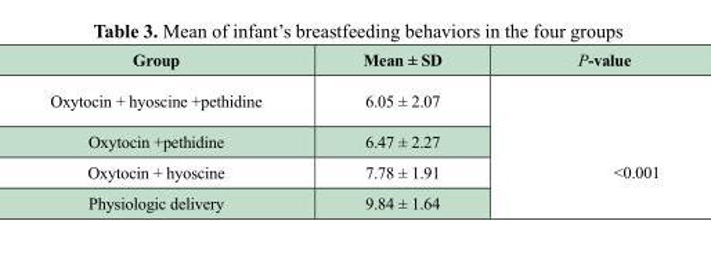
<table><thead><tr><td>Group</td><td>Mean ± SD</td><td>P-value</td></tr></thead><tbody><tr><td>Oxytocin + hyoscine +pethidine</td><td>6.05 ± 2.07</td><td rowspan="4">&lt;0.001</td></tr><tr><td>Oxytocin +pethidine</td><td>6.47 ± 2.27</td></tr><tr><td>Oxytocin + hyoscine</td><td>7.78 ± 1.91</td></tr><tr><td>Physiologic delivery</td><td>9.84 ± 1.64</td></tr></tbody></table>